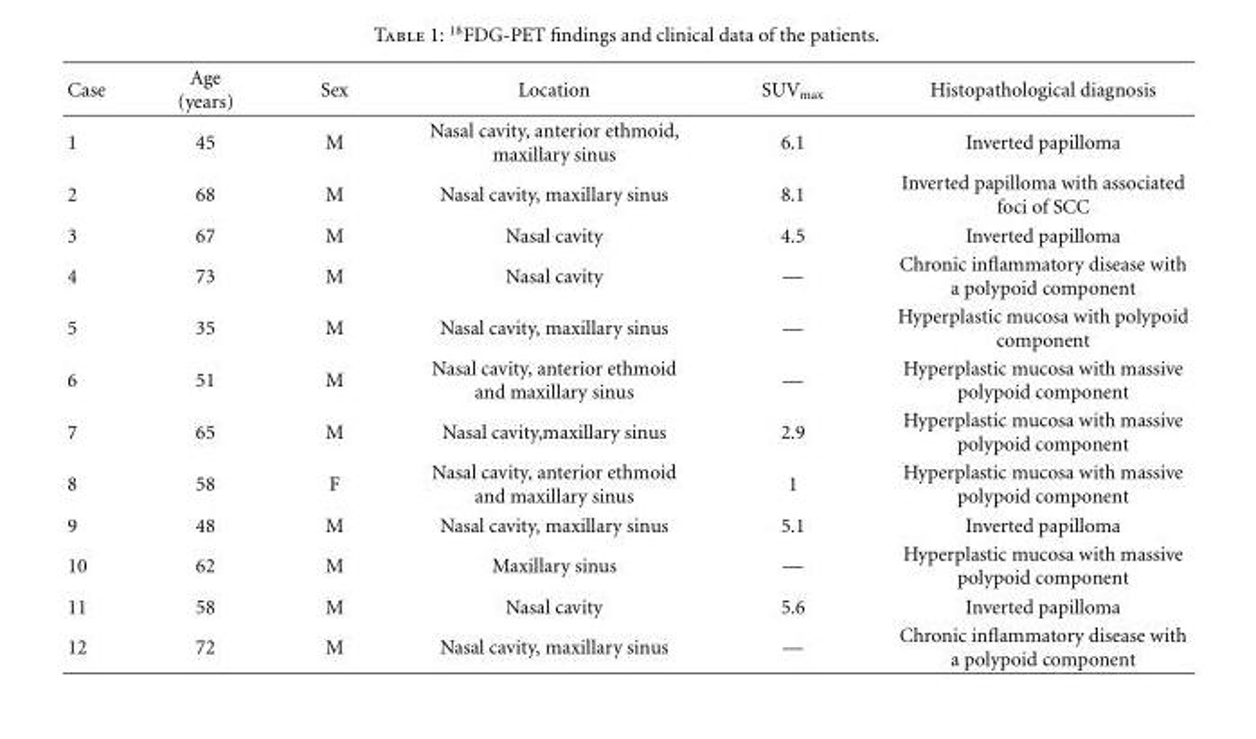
<table><thead><tr><td>Case</td><td>Age (years)</td><td>Sex</td><td>Location</td><td>SUV<sub>max</sub></td><td>Histopathological diagnosis</td></tr></thead><tbody><tr><td>1</td><td>45</td><td>M</td><td>Nasal cavity, anterior ethmoid, maxillary sinus</td><td>6.1</td><td>Inverted papilloma</td></tr><tr><td>2</td><td>68</td><td>M</td><td>Nasal cavity, maxillary sinus</td><td>8.1</td><td>Inverted papilloma with associated foci of SCC</td></tr><tr><td>3</td><td>67</td><td>M</td><td>Nasal cavity</td><td>4.5</td><td>Inverted papilloma</td></tr><tr><td>4</td><td>73</td><td>M</td><td>Nasal cavity</td><td>—</td><td>Chronic inflammatory disease with a polypoid component</td></tr><tr><td>5</td><td>35</td><td>M</td><td>Nasal cavity, maxillary sinus</td><td>—</td><td>Hyperplastic mucosa with polypoid component</td></tr><tr><td>6</td><td>51</td><td>M</td><td>Nasal cavity, anterior ethmoid and maxillary sinus</td><td>—</td><td>Hyperplastic mucosa with massive polypoid component</td></tr><tr><td>7</td><td>65</td><td>M</td><td>Nasal cavity,maxillary sinus</td><td>2.9</td><td>Hyperplastic mucosa with massive polypoid component</td></tr><tr><td>8</td><td>58</td><td>F</td><td>Nasal cavity, anterior ethmoid and maxillary sinus</td><td>1</td><td>Hyperplastic mucosa with massive polypoid component</td></tr><tr><td>9</td><td>48</td><td>M</td><td>Nasal cavity, maxillary sinus</td><td>5.1</td><td>Inverted papilloma</td></tr><tr><td>10</td><td>62</td><td>M</td><td>Maxillary sinus</td><td>—</td><td>Hyperplastic mucosa with massive polypoid component</td></tr><tr><td>11</td><td>58</td><td>M</td><td>Nasal cavity</td><td>5.6</td><td>Inverted papilloma</td></tr><tr><td>12</td><td>72</td><td>M</td><td>Nasal cavity, maxillary sinus</td><td>—</td><td>Chronic inflammatory disease with a polypoid component</td></tr></tbody></table>